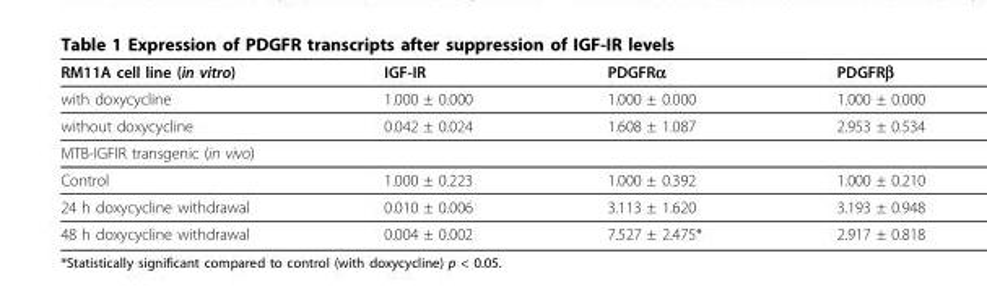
<table><thead><tr><td>RM11A cell line (in vitro)</td><td>IGF-IR</td><td>PDGFRα</td><td>PDGFRβ</td></tr></thead><tbody><tr><td>with doxycycline</td><td>1.000 ± 0.000</td><td>1.000 ± 0.000</td><td>1.000 ± 0.000</td></tr><tr><td>without doxycycline</td><td>0.042 ± 0.024</td><td>1.608 ± 1.087</td><td>2.953 ± 0.534</td></tr><tr><td colspan="4">MTB-IGFIR transgenic (in vivo)</td></tr><tr><td>Control</td><td>1.000 ± 0.223</td><td>1.000 ± 0.392</td><td>1.000 ± 0.210</td></tr><tr><td>24 h doxycycline withdrawal</td><td>0.010 ± 0.006</td><td>3.113 ± 1.620</td><td>3.193 ± 0.948</td></tr><tr><td>48 h doxycycline withdrawal</td><td>0.004 ± 0.002</td><td>7.527 ± 2.475*</td><td>2.917 ± 0.818</td></tr></tbody></table>